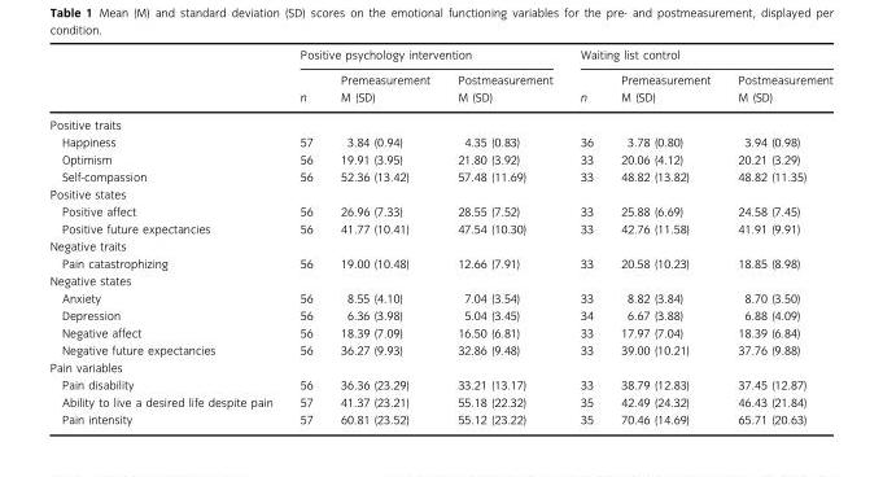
<table><thead><tr><td rowspan="2"></td><td colspan="3">Positive psychology intervention</td><td colspan="3">Waiting list control</td></tr><tr><td>n</td><td>Premeasurement M (SD)</td><td>Postmeasurement M (SD)</td><td>n</td><td>Premeasurement M (SD)</td><td>Postmeasurement M (SD)</td></tr></thead><tbody><tr><td colspan="7">Positive traits</td></tr><tr><td>Happiness</td><td>57</td><td>3.84 (0.94)</td><td>4.35 (0.83)</td><td>36</td><td>3.78 (0.80)</td><td>3.94 (0.98)</td></tr><tr><td>Optimism</td><td>56</td><td>19.91 (3.95)</td><td>21.80 (3.92)</td><td>33</td><td>20.06 (4.12)</td><td>20.21 (3.29)</td></tr><tr><td>Self-compassion</td><td>56</td><td>52.36 (13.42)</td><td>57.48 (11.69)</td><td>33</td><td>48.82 (13.82)</td><td>48.82 (11.35)</td></tr><tr><td colspan="7">Positive states</td></tr><tr><td>Positive affect</td><td>56</td><td>26.96 (7.33)</td><td>28.55 (7.52)</td><td>33</td><td>25.88 (6.69)</td><td>24.58 (7.45)</td></tr><tr><td>Positive future expectancies</td><td>56</td><td>41.77 (10.41)</td><td>47.54 (10.30)</td><td>33</td><td>42.76 (11.58)</td><td>41.91 (9.91)</td></tr><tr><td colspan="7">Negative traits</td></tr><tr><td>Pain catastrophizing</td><td>56</td><td>19.00 (10.48)</td><td>12.66 (7.91)</td><td>33</td><td>20.58 (10.23)</td><td>18.85 (8.98)</td></tr><tr><td colspan="7">Negative states</td></tr><tr><td>Anxiety</td><td>56</td><td>8.55 (4.10)</td><td>7.04 (3.54)</td><td>33</td><td>8.82 (3.84)</td><td>8.70 (3.50)</td></tr><tr><td>Depression</td><td>56</td><td>6.36 (3.98)</td><td>5.04 (3.45)</td><td>34</td><td>6.67 (3.88)</td><td>6.88 (4.09)</td></tr><tr><td>Negative affect</td><td>56</td><td>18.39 (7.09)</td><td>16.50 (6.81)</td><td>33</td><td>17.97 (7.04)</td><td>18.39 (6.84)</td></tr><tr><td>Negative future expectancies</td><td>56</td><td>36.27 (9.93)</td><td>32.86 (9.48)</td><td>33</td><td>39.00 (10.21)</td><td>37.76 (9.88)</td></tr><tr><td colspan="7">Pain variables</td></tr><tr><td>Pain disability</td><td>56</td><td>36.36 (23.29)</td><td>33.21 (13.17)</td><td>33</td><td>38.79 (12.83)</td><td>37.45 (12.87)</td></tr><tr><td>Ability to live a desired life despite pain</td><td>57</td><td>41.37 (23.21)</td><td>55.18 (22.32)</td><td>35</td><td>42.49 (24.32)</td><td>46.43 (21.84)</td></tr><tr><td>Pain intensity</td><td>57</td><td>60.81 (23.52)</td><td>55.12 (23.22)</td><td>35</td><td>70.46 (14.69)</td><td>65.71 (20.63)</td></tr></tbody></table>